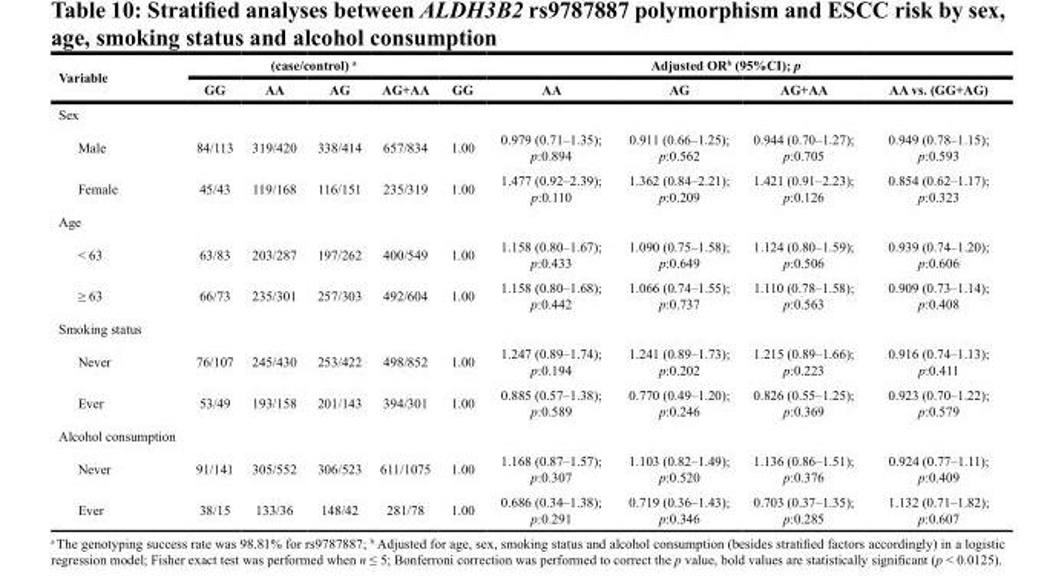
<table><thead><tr><td rowspan="2">Variable</td><td colspan="4">(case/control) <sup>a</sup></td><td colspan="5">Adjusted OR<sup>b</sup> (95%CI); p</td></tr><tr><td>GG</td><td>AA</td><td>AG</td><td>AG+AA</td><td>GG</td><td>AA</td><td>AG</td><td>AG+AA</td><td>AA vs. (GG+AG)</td></tr></thead><tbody><tr><td colspan="10">Sex</td></tr><tr><td>Male</td><td>84/113</td><td>319/420</td><td>338/414</td><td>657/834</td><td>1.00</td><td>0.979 (0.71–1.35); p:0.894</td><td>0.911 (0.66–1.25); p:0.562</td><td>0.944 (0.70–1.27); p:0.705</td><td>0.949 (0.78–1.15); p:0.593</td></tr><tr><td>Female</td><td>45/43</td><td>119/168</td><td>116/151</td><td>235/319</td><td>1.00</td><td>1.477 (0.92–2.39); p:0.110</td><td>1.362 (0.84–2.21); p:0.209</td><td>1.421 (0.91–2.23); p:0.126</td><td>0.854 (0.62–1.17); p:0.323</td></tr><tr><td colspan="10">Age</td></tr><tr><td>&lt; 63</td><td>63/83</td><td>203/287</td><td>197/262</td><td>400/549</td><td>1.00</td><td>1.158 (0.80–1.67); p:0.433</td><td>1.090 (0.75–1.58); p:0.649</td><td>1.124 (0.80–1.59); p:0.506</td><td>0.939 (0.74–1.20); p:0.606</td></tr><tr><td>≥ 63</td><td>66/73</td><td>235/301</td><td>257/303</td><td>492/604</td><td>1.00</td><td>1.158 (0.80–1.68); p:0.442</td><td>1.066 (0.74–1.55); p:0.737</td><td>1.110 (0.78–1.58); p:0.563</td><td>0.909 (0.73–1.14); p:0.408</td></tr><tr><td colspan="10">Smoking status</td></tr><tr><td>Never</td><td>76/107</td><td>245/430</td><td>253/422</td><td>498/852</td><td>1.00</td><td>1.247 (0.89–1.74); p:0.194</td><td>1.241 (0.89–1.73); p:0.202</td><td>1.215 (0.89–1.66); p:0.223</td><td>0.916 (0.74–1.13); p:0.411</td></tr><tr><td>Ever</td><td>53/49</td><td>193/158</td><td>201/143</td><td>394/301</td><td>1.00</td><td>0.885 (0.57–1.38); p:0.589</td><td>0.770 (0.49–1.20); p:0.246</td><td>0.826 (0.55–1.25); p:0.369</td><td>0.923 (0.70–1.22); p:0.579</td></tr><tr><td colspan="10">Alcohol consumption</td></tr><tr><td>Never</td><td>91/141</td><td>305/552</td><td>306/523</td><td>611/1075</td><td>1.00</td><td>1.168 (0.87–1.57); p:0.307</td><td>1.103 (0.82–1.49); p:0.520</td><td>1.136 (0.86–1.51); p:0.376</td><td>0.924 (0.77–1.11); p:0.409</td></tr><tr><td>Ever</td><td>38/15</td><td>133/36</td><td>148/42</td><td>281/78</td><td>1.00</td><td>0.686 (0.34–1.38); p:0.291</td><td>0.719 (0.36–1.43); p:0.346</td><td>0.703 (0.37–1.35); p:0.285</td><td>1.132 (0.71–1.82); p:0.607</td></tr></tbody></table>